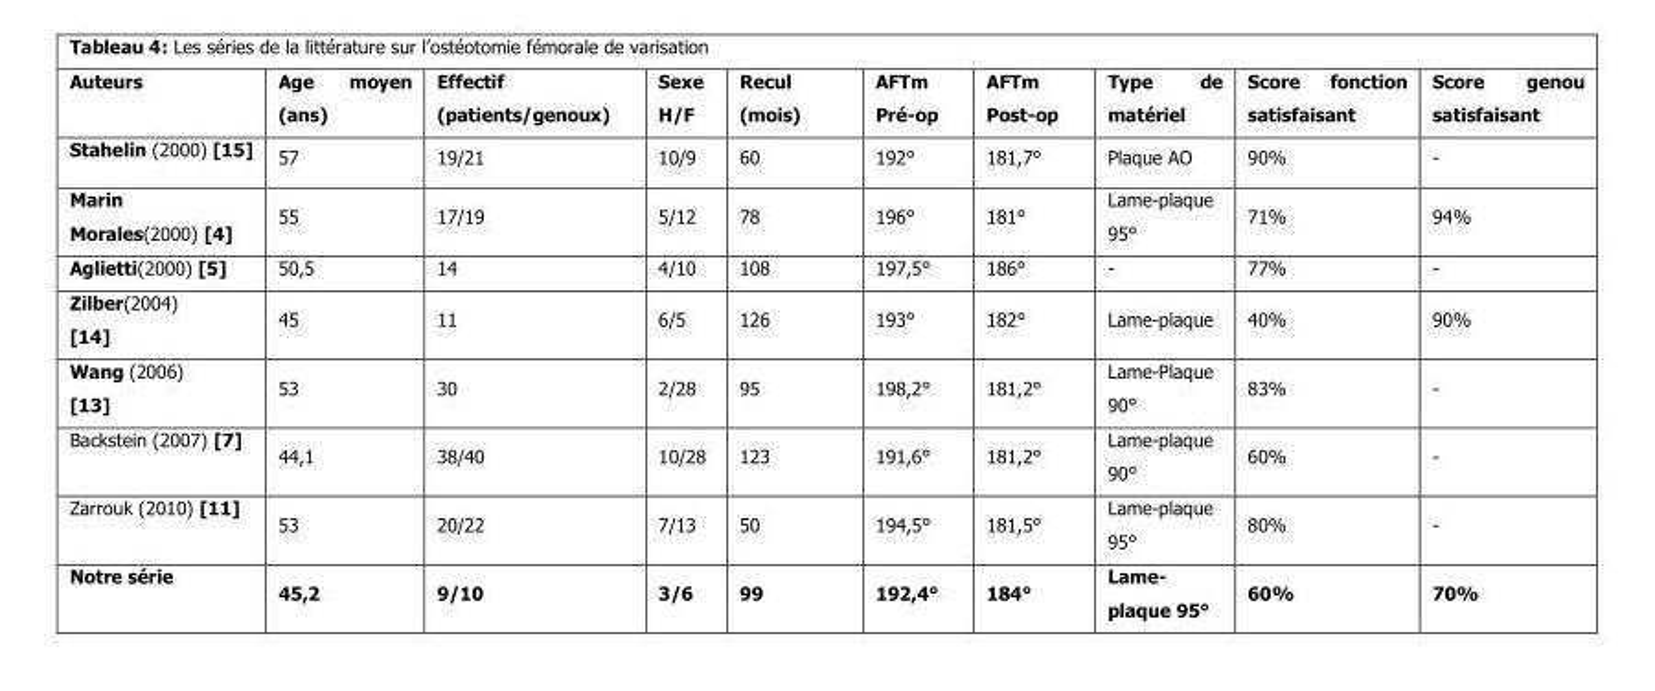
<table><thead><tr><td>Auteurs</td><td>Age moyen (ans)</td><td>Effectif (patients/genoux)</td><td>Sexe H/F</td><td>Recul (mois)</td><td>AFTm Pré-op</td><td>AFTm Post-op</td><td>Type de matériel</td><td>Score fonction satisfaisant</td><td>Score genou satisfaisant</td></tr></thead><tbody><tr><td>Stahelin (2000) [15]</td><td>57</td><td>19/21</td><td>10/9</td><td>60</td><td>192°</td><td>181,7°</td><td>Plaque AO</td><td>90%</td><td>-</td></tr><tr><td>Marin Morales(2000) [4]</td><td>55</td><td>17/19</td><td>5/12</td><td>78</td><td>196°</td><td>181°</td><td>Lame-plaque 95°</td><td>71%</td><td>94%</td></tr><tr><td>Aglietti(2000) [5]</td><td>50,5</td><td>14</td><td>4/10</td><td>108</td><td>197,5°</td><td>186°</td><td>-</td><td>77%</td><td>-</td></tr><tr><td>Zilber(2004) [14]</td><td>45</td><td>11</td><td>6/5</td><td>126</td><td>193°</td><td>182°</td><td>Lame-plaque</td><td>40%</td><td>90%</td></tr><tr><td>Wang (2006) [13]</td><td>53</td><td>30</td><td>2/28</td><td>95</td><td>198,2°</td><td>181,2°</td><td>Lame-Plaque 90°</td><td>83%</td><td>-</td></tr><tr><td>Backstein (2007) [7]</td><td>44,1</td><td>38/40</td><td>10/28</td><td>123</td><td>191,6°</td><td>181,2°</td><td>Lame-plaque 90°</td><td>60%</td><td>-</td></tr><tr><td>Zarrouk (2010) [11]</td><td>53</td><td>20/22</td><td>7/13</td><td>50</td><td>194,5°</td><td>181,5°</td><td>Lame-plaque 95°</td><td>80%</td><td>-</td></tr><tr><td>Notre série</td><td>45,2</td><td>9/10</td><td>3/6</td><td>99</td><td>192,4°</td><td>184°</td><td>Lame- plaque 95°</td><td>60%</td><td>70%</td></tr></tbody></table>